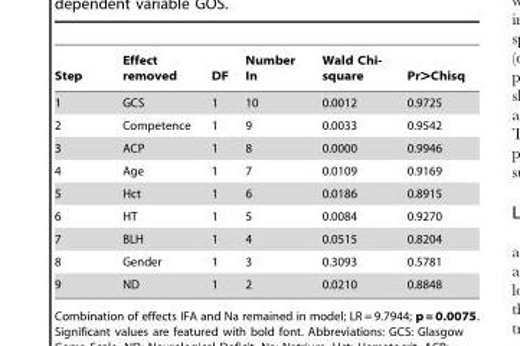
<table><thead><tr><td>Step</td><td>Effect removed</td><td>DF</td><td>Number In</td><td>Wald Chi- square</td><td>Pr&gt;Chisq</td></tr></thead><tbody><tr><td>1</td><td>GCS</td><td>1</td><td>10</td><td>0.0012</td><td>0.9725</td></tr><tr><td>2</td><td>Competence</td><td>1</td><td>9</td><td>0.0033</td><td>0.9542</td></tr><tr><td>3</td><td>ACP</td><td>1</td><td>8</td><td>0.0000</td><td>0.9946</td></tr><tr><td>4</td><td>Age</td><td>1</td><td>7</td><td>0.0109</td><td>0.9169</td></tr><tr><td>5</td><td>Hct</td><td>1</td><td>6</td><td>0.0186</td><td>0.8915</td></tr><tr><td>6</td><td>HT</td><td>1</td><td>5</td><td>0.0084</td><td>0.9270</td></tr><tr><td>7</td><td>BLH</td><td>1</td><td>4</td><td>0.0515</td><td>0.8204</td></tr><tr><td>8</td><td>Gender</td><td>1</td><td>3</td><td>0.3093</td><td>0.5781</td></tr><tr><td>9</td><td>ND</td><td>1</td><td>2</td><td>0.0210</td><td>0.8848</td></tr></tbody></table>